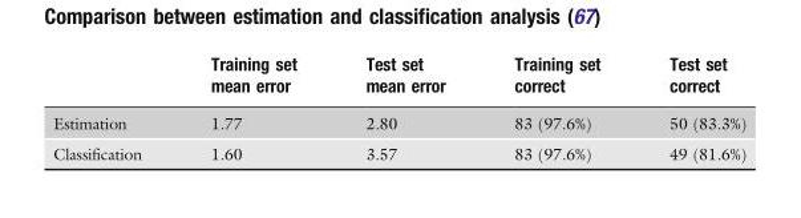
<table><thead><tr><td></td><td>Training set mean error</td><td>Test set mean error</td><td>Training set correct</td><td>Test set correct</td></tr></thead><tbody><tr><td>Estimation</td><td>1.77</td><td>2.80</td><td>83 (97.6%)</td><td>50 (83.3%)</td></tr><tr><td>Classification</td><td>1.60</td><td>3.57</td><td>83 (97.6%)</td><td>49 (81.6%)</td></tr></tbody></table>